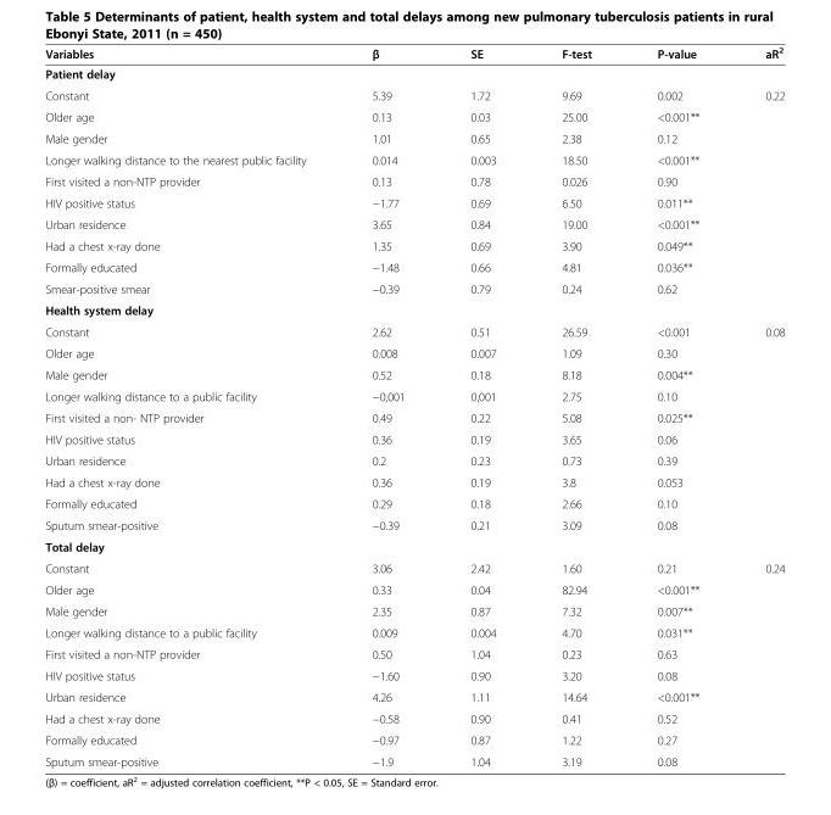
<table><thead><tr><td>Variables</td><td>β</td><td>SE</td><td>F-test</td><td>P-value</td><td>aR<sup>2</sup></td></tr></thead><tbody><tr><td colspan="6">Patient delay</td></tr><tr><td>Constant</td><td>5.39</td><td>1.72</td><td>9.69</td><td>0.002</td><td>0.22</td></tr><tr><td>Older age</td><td>0.13</td><td>0.03</td><td>25.00</td><td>&lt;0.001**</td><td></td></tr><tr><td>Male gender</td><td>1.01</td><td>0.65</td><td>2.38</td><td>0.12</td><td></td></tr><tr><td>Longer walking distance to the nearest public facility</td><td>0.014</td><td>0.003</td><td>18.50</td><td>&lt;0.001**</td><td></td></tr><tr><td>First visited a non-NTP provider</td><td>0.13</td><td>0.78</td><td>0.026</td><td>0.90</td><td></td></tr><tr><td>HIV positive status</td><td>−1.77</td><td>0.69</td><td>6.50</td><td>0.011**</td><td></td></tr><tr><td>Urban residence</td><td>3.65</td><td>0.84</td><td>19.00</td><td>&lt;0.001**</td><td></td></tr><tr><td>Had a chest x-ray done</td><td>1.35</td><td>0.69</td><td>3.90</td><td>0.049**</td><td></td></tr><tr><td>Formally educated</td><td>−1.48</td><td>0.66</td><td>4.81</td><td>0.036**</td><td></td></tr><tr><td>Smear-positive smear</td><td>−0.39</td><td>0.79</td><td>0.24</td><td>0.62</td><td></td></tr><tr><td colspan="6">Health system delay</td></tr><tr><td>Constant</td><td>2.62</td><td>0.51</td><td>26.59</td><td>&lt;0.001</td><td>0.08</td></tr><tr><td>Older age</td><td>0.008</td><td>0.007</td><td>1.09</td><td>0.30</td><td></td></tr><tr><td>Male gender</td><td>0.52</td><td>0.18</td><td>8.18</td><td>0.004**</td><td></td></tr><tr><td>Longer walking distance to a public facility</td><td>−0,001</td><td>0,001</td><td>2.75</td><td>0.10</td><td></td></tr><tr><td>First visited a non- NTP provider</td><td>0.49</td><td>0.22</td><td>5.08</td><td>0.025**</td><td></td></tr><tr><td>HIV positive status</td><td>0.36</td><td>0.19</td><td>3.65</td><td>0.06</td><td></td></tr><tr><td>Urban residence</td><td>0.2</td><td>0.23</td><td>0.73</td><td>0.39</td><td></td></tr><tr><td>Had a chest x-ray done</td><td>0.36</td><td>0.19</td><td>3.8</td><td>0.053</td><td></td></tr><tr><td>Formally educated</td><td>0.29</td><td>0.18</td><td>2.66</td><td>0.10</td><td></td></tr><tr><td>Sputum smear-positive</td><td>−0.39</td><td>0.21</td><td>3.09</td><td>0.08</td><td></td></tr><tr><td colspan="6">Total delay</td></tr><tr><td>Constant</td><td>3.06</td><td>2.42</td><td>1.60</td><td>0.21</td><td>0.24</td></tr><tr><td>Older age</td><td>0.33</td><td>0.04</td><td>82.94</td><td>&lt;0.001**</td><td></td></tr><tr><td>Male gender</td><td>2.35</td><td>0.87</td><td>7.32</td><td>0.007**</td><td></td></tr><tr><td>Longer walking distance to a public facility</td><td>0.009</td><td>0.004</td><td>4.70</td><td>0.031**</td><td></td></tr><tr><td>First visited a non-NTP provider</td><td>0.50</td><td>1.04</td><td>0.23</td><td>0.63</td><td></td></tr><tr><td>HIV positive status</td><td>−1.60</td><td>0.90</td><td>3.20</td><td>0.08</td><td></td></tr><tr><td>Urban residence</td><td>4.26</td><td>1.11</td><td>14.64</td><td>&lt;0.001**</td><td></td></tr><tr><td>Had a chest x-ray done</td><td>−0.58</td><td>0.90</td><td>0.41</td><td>0.52</td><td></td></tr><tr><td>Formally educated</td><td>−0.97</td><td>0.87</td><td>1.22</td><td>0.27</td><td></td></tr><tr><td>Sputum smear-positive</td><td>−1.9</td><td>1.04</td><td>3.19</td><td>0.08</td><td></td></tr></tbody></table>